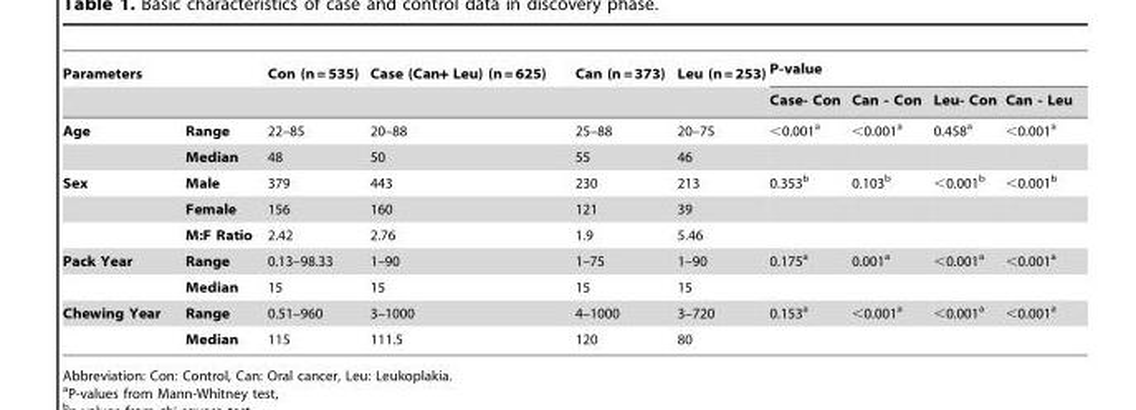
<table><thead><tr><td colspan="2">Parameters</td><td rowspan="2">Con (n = 535)</td><td rowspan="2">Case (Can+ Leu) (n = 625)</td><td rowspan="2">Can (n = 373)</td><td rowspan="2">Leu (n = 253)</td><td colspan="4">P-value</td></tr><tr><td></td><td></td><td>Case- Con</td><td>Can - Con</td><td>Leu- Con</td><td>Can - Leu</td></tr></thead><tbody><tr><td rowspan="2">Age</td><td>Range</td><td>22–85</td><td>20–88</td><td>25–88</td><td>20–75</td><td>&lt;0.001<sup>a</sup></td><td>&lt;0.001<sup>a</sup></td><td>0.458<sup>a</sup></td><td>&lt;0.001<sup>a</sup></td></tr><tr><td>Median</td><td>48</td><td>50</td><td>55</td><td>46</td><td></td><td></td><td></td><td></td></tr><tr><td rowspan="3">Sex</td><td>Male</td><td>379</td><td>443</td><td>230</td><td>213</td><td>0.353<sup>b</sup></td><td>0.103<sup>b</sup></td><td>&lt;0.001<sup>b</sup></td><td>&lt;0.001<sup>b</sup></td></tr><tr><td>Female</td><td>156</td><td>160</td><td>121</td><td>39</td><td></td><td></td><td></td><td></td></tr><tr><td>M:F Ratio</td><td>2.42</td><td>2.76</td><td>1.9</td><td>5.46</td><td></td><td></td><td></td><td></td></tr><tr><td rowspan="2">Pack Year</td><td>Range</td><td>0.13–98.33</td><td>1–90</td><td>1–75</td><td>1–90</td><td>0.175<sup>a</sup></td><td>0.001<sup>a</sup></td><td>&lt;0.001<sup>a</sup></td><td>&lt;0.001<sup>a</sup></td></tr><tr><td>Median</td><td>15</td><td>15</td><td>15</td><td>15</td><td></td><td></td><td></td><td></td></tr><tr><td rowspan="2">Chewing Year</td><td>Range</td><td>0.51–960</td><td>3–1000</td><td>4–1000</td><td>3–720</td><td>0.153<sup>a</sup></td><td>&lt;0.001<sup>a</sup></td><td>&lt;0.001<sup>a</sup></td><td>&lt;0.001<sup>a</sup></td></tr><tr><td>Median</td><td>115</td><td>111.5</td><td>120</td><td>80</td><td></td><td></td><td></td><td></td></tr></tbody></table>